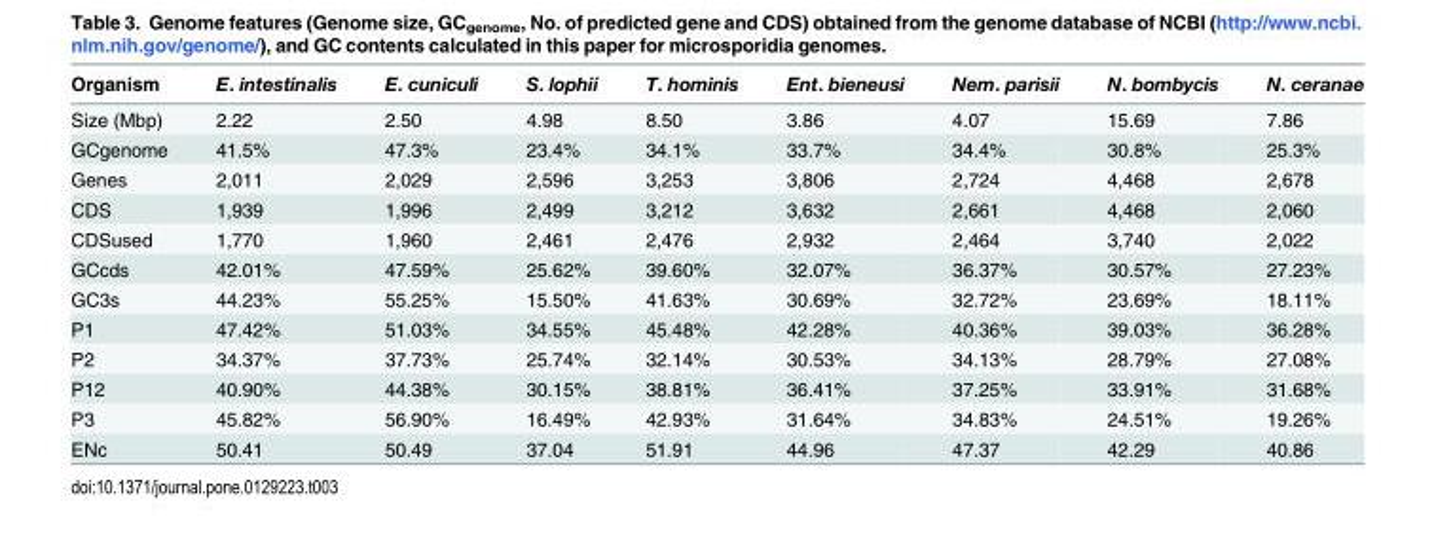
<table><thead><tr><td>Organism</td><td>E. intestinalis</td><td>E. cuniculi</td><td>S. lophii</td><td>T. hominis</td><td>Ent. bieneusi</td><td>Nem. parisii</td><td>N. bombycis</td><td>N. ceranae</td></tr></thead><tbody><tr><td>Size (Mbp)</td><td>2.22</td><td>2.50</td><td>4.98</td><td>8.50</td><td>3.86</td><td>4.07</td><td>15.69</td><td>7.86</td></tr><tr><td>GCgenome</td><td>41.5%</td><td>47.3%</td><td>23.4%</td><td>34.1%</td><td>33.7%</td><td>34.4%</td><td>30.8%</td><td>25.3%</td></tr><tr><td>Genes</td><td>2,011</td><td>2,029</td><td>2,596</td><td>3,253</td><td>3,806</td><td>2,724</td><td>4,468</td><td>2,678</td></tr><tr><td>CDS</td><td>1,939</td><td>1,996</td><td>2,499</td><td>3,212</td><td>3,632</td><td>2,661</td><td>4,468</td><td>2,060</td></tr><tr><td>CDSused</td><td>1,770</td><td>1,960</td><td>2,461</td><td>2,476</td><td>2,932</td><td>2,464</td><td>3,740</td><td>2,022</td></tr><tr><td>GCcds</td><td>42.01%</td><td>47.59%</td><td>25.62%</td><td>39.60%</td><td>32.07%</td><td>36.37%</td><td>30.57%</td><td>27.23%</td></tr><tr><td>GC3s</td><td>44.23%</td><td>55.25%</td><td>15.50%</td><td>41.63%</td><td>30.69%</td><td>32.72%</td><td>23.69%</td><td>18.11%</td></tr><tr><td>P1</td><td>47.42%</td><td>51.03%</td><td>34.55%</td><td>45.48%</td><td>42.28%</td><td>40.36%</td><td>39.03%</td><td>36.28%</td></tr><tr><td>P2</td><td>34.37%</td><td>37.73%</td><td>25.74%</td><td>32.14%</td><td>30.53%</td><td>34.13%</td><td>28.79%</td><td>27.08%</td></tr><tr><td>P12</td><td>40.90%</td><td>44.38%</td><td>30.15%</td><td>38.81%</td><td>36.41%</td><td>37.25%</td><td>33.91%</td><td>31.68%</td></tr><tr><td>P3</td><td>45.82%</td><td>56.90%</td><td>16.49%</td><td>42.93%</td><td>31.64%</td><td>34.83%</td><td>24.51%</td><td>19.26%</td></tr><tr><td>ENc</td><td>50.41</td><td>50.49</td><td>37.04</td><td>51.91</td><td>44.96</td><td>47.37</td><td>42.29</td><td>40.86</td></tr></tbody></table>